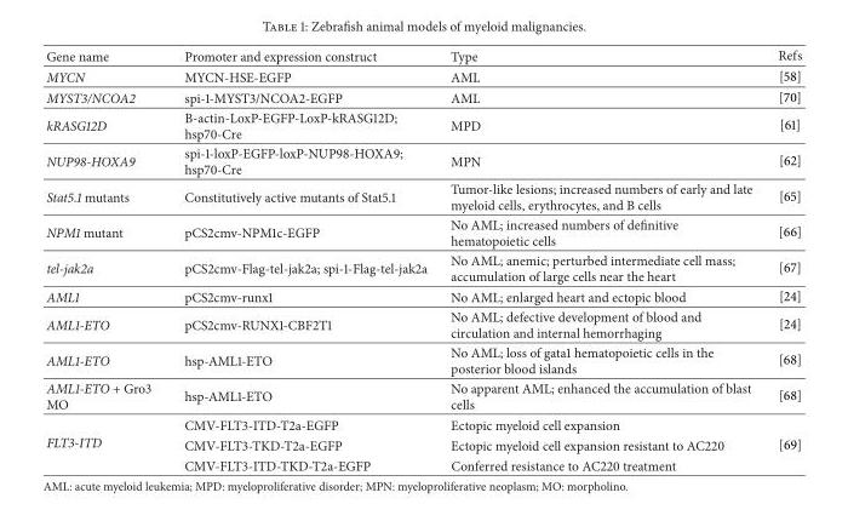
<table><thead><tr><td>Gene name</td><td>Promoter and expression construct</td><td>Type</td><td>Refs</td></tr></thead><tbody><tr><td>MYCN</td><td>MYCN-HSE-EGFP</td><td>AML</td><td>[58]</td></tr><tr><td>MYST3/NCOA2</td><td>spi-1-MYST3/NCOA2-EGFP</td><td>AML</td><td>[70]</td></tr><tr><td>kRASG12D</td><td>B-actin-LoxP-EGFP-LoxP-kRASG12D; hsp70-Cre</td><td>MPD</td><td>[61]</td></tr><tr><td>NUP98-HOXA9</td><td>spi-1-loxP-EGFP-loxP-NUP98-HOXA9; hsp70-Cre</td><td>MPN</td><td>[62]</td></tr><tr><td>Stat5.1 mutants</td><td>Constitutively active mutants of Stat5.1</td><td>Tumor-like lesions; increased numbers of early and late myeloid cells, erythrocytes, and B cells</td><td>[65]</td></tr><tr><td>NPM1 mutant</td><td>pCS2cmv-NPM1c-EGFP</td><td>No AML; increased numbers of definitive hematopoietic cells</td><td>[66]</td></tr><tr><td>tel-jak2a</td><td>pCS2cmv-Flag-tel-jak2a; spi-1-Flag-tel-jak2a</td><td>No AML; anemic; perturbed intermediate cell mass; accumulation of large cells near the heart</td><td>[67]</td></tr><tr><td>AML1</td><td>pCS2cmv-runx1</td><td>No AML; enlarged heart and ectopic blood</td><td>[24]</td></tr><tr><td>AML1-ETO</td><td>pCS2cmv-RUNX1-CBF2T1</td><td>No AML; defective development of blood and circulation and internal hemorrhaging</td><td>[24]</td></tr><tr><td>AML1-ETO</td><td>hsp-AML1-ETO</td><td>No AML; loss of gata1 hematopoietic cells in the posterior blood islands</td><td>[68]</td></tr><tr><td>AML1-ETO + Gro3 MO</td><td>hsp-AML1-ETO</td><td>No apparent AML; enhanced the accumulation of blast cells</td><td>[68]</td></tr><tr><td rowspan="3">FLT3-ITD</td><td>CMV-FLT3-ITD-T2a-EGFP</td><td>Ectopic myeloid cell expansion</td><td></td></tr><tr><td>CMV-FLT3-TKD-T2a-EGFP</td><td>Ectopic myeloid cell expansion resistant to AC220</td><td>[69]</td></tr><tr><td>CMV-FLT3-ITD-TKD-T2a-EGFP</td><td>Conferred resistance to AC220 treatment</td><td></td></tr></tbody></table>